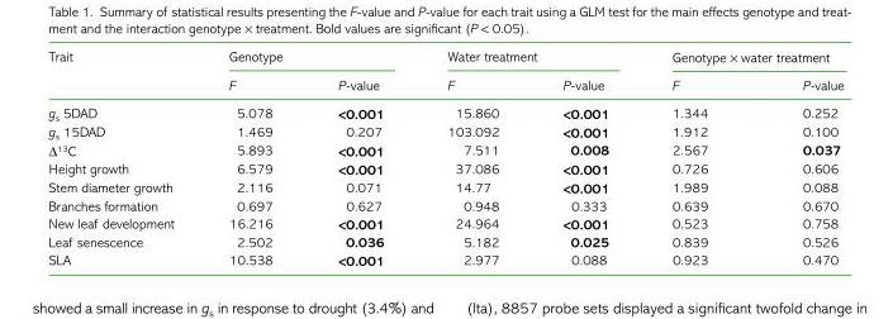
<table><thead><tr><td rowspan="2">Trait</td><td colspan="2">Genotype</td><td colspan="2">Water treatment</td><td colspan="2">Genotype × water treatment</td></tr><tr><td>F</td><td>P-value</td><td>F</td><td>P-value</td><td>F</td><td>P-value</td></tr></thead><tbody><tr><td>g<sub>s</sub> 5DAD</td><td>5.078</td><td>&lt;0.001</td><td>15.860</td><td>&lt;0.001</td><td>1.344</td><td>0.252</td></tr><tr><td>g<sub>s</sub> 15DAD</td><td>1.469</td><td>0.207</td><td>103.092</td><td>&lt;0.001</td><td>1.912</td><td>0.100</td></tr><tr><td>Δ<sup>13</sup>C</td><td>5.893</td><td>&lt;0.001</td><td>7.511</td><td>0.008</td><td>2.567</td><td>0.037</td></tr><tr><td>Height growth</td><td>6.579</td><td>&lt;0.001</td><td>37.086</td><td>&lt;0.001</td><td>0.726</td><td>0.606</td></tr><tr><td>Stem diameter growth</td><td>2.116</td><td>0.071</td><td>14.77</td><td>&lt;0.001</td><td>1.989</td><td>0.088</td></tr><tr><td>Branches formation</td><td>0.697</td><td>0.627</td><td>0.948</td><td>0.333</td><td>0.639</td><td>0.670</td></tr><tr><td>New leaf development</td><td>16.216</td><td>&lt;0.001</td><td>24.964</td><td>&lt;0.001</td><td>0.523</td><td>0.758</td></tr><tr><td>Leaf senescence</td><td>2.502</td><td>0.036</td><td>5.182</td><td>0.025</td><td>0.839</td><td>0.526</td></tr><tr><td>SLA</td><td>10.538</td><td>&lt;0.001</td><td>2.977</td><td>0.088</td><td>0.923</td><td>0.470</td></tr></tbody></table>